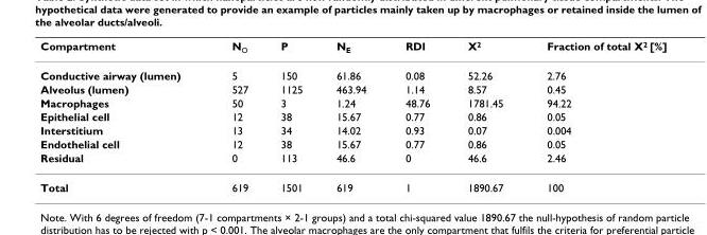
<table><thead><tr><td>Compartment</td><td>N<sub>O</sub></td><td>P</td><td>N<sub>E</sub></td><td>RDI</td><td>X<sup>2</sup></td><td>Fraction of total X<sup>2</sup> [%]</td></tr></thead><tbody><tr><td>Conductive airway (lumen)</td><td>5</td><td>150</td><td>61.86</td><td>0.08</td><td>52.26</td><td>2.76</td></tr><tr><td>Alveolus (lumen)</td><td>527</td><td>1125</td><td>463.94</td><td>1.14</td><td>8.57</td><td>0.45</td></tr><tr><td>Macrophages</td><td>50</td><td>3</td><td>1.24</td><td>48.76</td><td>1781.45</td><td>94.22</td></tr><tr><td>Epithelial cell</td><td>12</td><td>38</td><td>15.67</td><td>0.77</td><td>0.86</td><td>0.05</td></tr><tr><td>Interstitium</td><td>13</td><td>34</td><td>14.02</td><td>0.93</td><td>0.07</td><td>0.004</td></tr><tr><td>Endothelial cell</td><td>12</td><td>38</td><td>15.67</td><td>0.77</td><td>0.86</td><td>0.05</td></tr><tr><td>Residual</td><td>0</td><td>113</td><td>46.6</td><td>0</td><td>46.6</td><td>2.46</td></tr><tr><td>Total</td><td>619</td><td>1501</td><td>619</td><td>1</td><td>1890.67</td><td>100</td></tr></tbody></table>